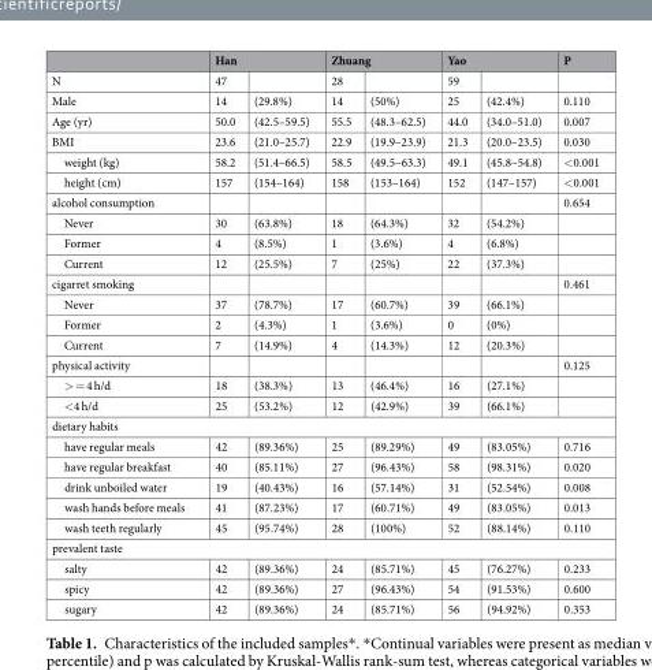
<table><thead><tr><td rowspan="2">N</td><td colspan="2">Han</td><td colspan="2">Zhuang</td><td colspan="2">Yao</td><td rowspan="2">P</td></tr><tr><td>47</td><td></td><td>28</td><td></td><td>59</td><td></td></tr></thead><tbody><tr><td>Male</td><td>14</td><td>(29.8%)</td><td>14</td><td>(50%)</td><td>25</td><td>(42.4%)</td><td>0.110</td></tr><tr><td>Age (yr)</td><td>50.0</td><td>(42.5–59.5)</td><td>55.5</td><td>(48.3–62.5)</td><td>44.0</td><td>(34.0–51.0)</td><td>0.007</td></tr><tr><td>BMI</td><td>23.6</td><td>(21.0–25.7)</td><td>22.9</td><td>(19.9–23.9)</td><td>21.3</td><td>(20.0–23.5)</td><td>0.030</td></tr><tr><td>weight (kg)</td><td>58.2</td><td>(51.4–66.5)</td><td>58.5</td><td>(49.5–63.3)</td><td>49.1</td><td>(45.8–54.8)</td><td>&lt;0.001</td></tr><tr><td>height (cm)</td><td>157</td><td>(154–164)</td><td>158</td><td>(153–164)</td><td>152</td><td>(147–157)</td><td>&lt;0.001</td></tr><tr><td>alcohol consumption</td><td></td><td></td><td></td><td></td><td></td><td></td><td>0.654</td></tr><tr><td>Never</td><td>30</td><td>(63.8%)</td><td>18</td><td>(64.3%)</td><td>32</td><td>(54.2%)</td><td></td></tr><tr><td>Former</td><td>4</td><td>(8.5%)</td><td>1</td><td>(3.6%)</td><td>4</td><td>(6.8%)</td><td></td></tr><tr><td>Current</td><td>12</td><td>(25.5%)</td><td>7</td><td>(25%)</td><td>22</td><td>(37.3%)</td><td></td></tr><tr><td>cigarret smoking</td><td></td><td></td><td></td><td></td><td></td><td></td><td>0.461</td></tr><tr><td>Never</td><td>37</td><td>(78.7%)</td><td>17</td><td>(60.7%)</td><td>39</td><td>(66.1%)</td><td></td></tr><tr><td>Former</td><td>2</td><td>(4.3%)</td><td>1</td><td>(3.6%)</td><td>0</td><td>(0%)</td><td></td></tr><tr><td>Current</td><td>7</td><td>(14.9%)</td><td>4</td><td>(14.3%)</td><td>12</td><td>(20.3%)</td><td></td></tr><tr><td>physical activity</td><td></td><td></td><td></td><td></td><td></td><td></td><td>0.125</td></tr><tr><td>&gt; = 4 h/d</td><td>18</td><td>(38.3%)</td><td>13</td><td>(46.4%)</td><td>16</td><td>(27.1%)</td><td></td></tr><tr><td>&lt;4 h/d</td><td>25</td><td>(53.2%)</td><td>12</td><td>(42.9%)</td><td>39</td><td>(66.1%)</td><td></td></tr><tr><td colspan="8">dietary habits</td></tr><tr><td>have regular meals</td><td>42</td><td>(89.36%)</td><td>25</td><td>(89.29%)</td><td>49</td><td>(83.05%)</td><td>0.716</td></tr><tr><td>have regular breakfast</td><td>40</td><td>(85.11%)</td><td>27</td><td>(96.43%)</td><td>58</td><td>(98.31%)</td><td>0.020</td></tr><tr><td>drink unboiled water</td><td>19</td><td>(40.43%)</td><td>16</td><td>(57.14%)</td><td>31</td><td>(52.54%)</td><td>0.008</td></tr><tr><td>wash hands before meals</td><td>41</td><td>(87.23%)</td><td>17</td><td>(60.71%)</td><td>49</td><td>(83.05%)</td><td>0.013</td></tr><tr><td>wash teeth regularly</td><td>45</td><td>(95.74%)</td><td>28</td><td>(100%)</td><td>52</td><td>(88.14%)</td><td>0.110</td></tr><tr><td colspan="8">prevalent taste</td></tr><tr><td>salty</td><td>42</td><td>(89.36%)</td><td>24</td><td>(85.71%)</td><td>45</td><td>(76.27%)</td><td>0.233</td></tr><tr><td>spicy</td><td>42</td><td>(89.36%)</td><td>27</td><td>(96.43%)</td><td>54</td><td>(91.53%)</td><td>0.600</td></tr><tr><td>sugary</td><td>42</td><td>(89.36%)</td><td>24</td><td>(85.71%)</td><td>56</td><td>(94.92%)</td><td>0.353</td></tr></tbody></table>